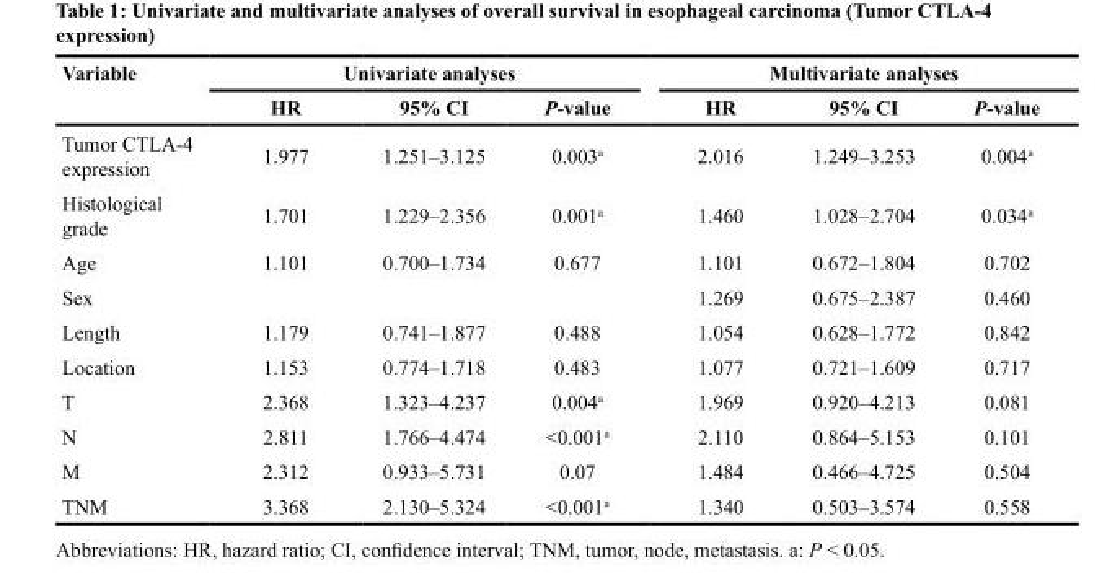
<table><thead><tr><td rowspan="2">Variable</td><td colspan="3">Univariate analyses</td><td colspan="3">Multivariate analyses</td></tr><tr><td>HR</td><td>95% CI</td><td>P-value</td><td>HR</td><td>95% CI</td><td>P-value</td></tr></thead><tbody><tr><td>Tumor CTLA-4 expression</td><td>1.977</td><td>1.251–3.125</td><td>0.003<sup>a</sup></td><td>2.016</td><td>1.249–3.253</td><td>0.004<sup>a</sup></td></tr><tr><td>Histological grade</td><td>1.701</td><td>1.229–2.356</td><td>0.001<sup>a</sup></td><td>1.460</td><td>1.028–2.704</td><td>0.034<sup>a</sup></td></tr><tr><td>Age</td><td>1.101</td><td>0.700–1.734</td><td>0.677</td><td>1.101</td><td>0.672–1.804</td><td>0.702</td></tr><tr><td>Sex</td><td></td><td></td><td></td><td>1.269</td><td>0.675–2.387</td><td>0.460</td></tr><tr><td>Length</td><td>1.179</td><td>0.741–1.877</td><td>0.488</td><td>1.054</td><td>0.628–1.772</td><td>0.842</td></tr><tr><td>Location</td><td>1.153</td><td>0.774–1.718</td><td>0.483</td><td>1.077</td><td>0.721–1.609</td><td>0.717</td></tr><tr><td>T</td><td>2.368</td><td>1.323–4.237</td><td>0.004<sup>a</sup></td><td>1.969</td><td>0.920–4.213</td><td>0.081</td></tr><tr><td>N</td><td>2.811</td><td>1.766–4.474</td><td>&lt;0.001<sup>a</sup></td><td>2.110</td><td>0.864–5.153</td><td>0.101</td></tr><tr><td>M</td><td>2.312</td><td>0.933–5.731</td><td>0.07</td><td>1.484</td><td>0.466–4.725</td><td>0.504</td></tr><tr><td>TNM</td><td>3.368</td><td>2.130–5.324</td><td>&lt;0.001<sup>a</sup></td><td>1.340</td><td>0.503–3.574</td><td>0.558</td></tr></tbody></table>